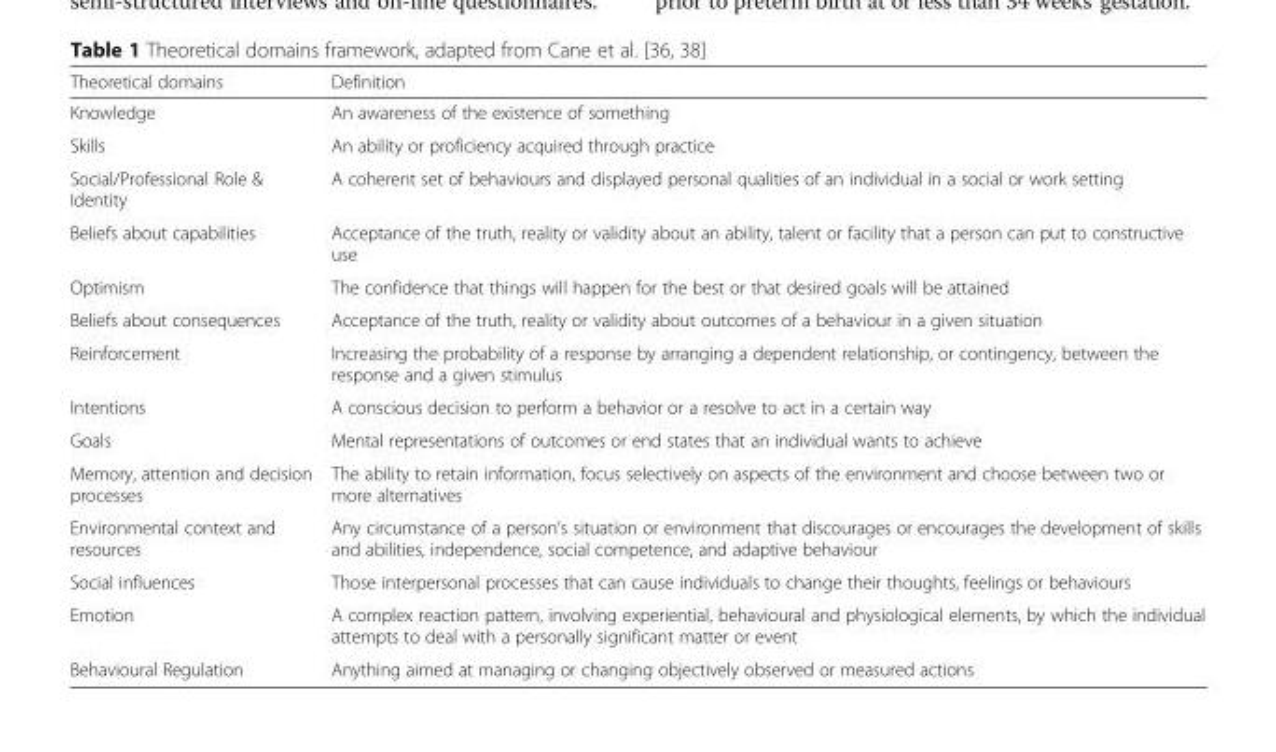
<table><thead><tr><td>Theoretical domains</td><td>Definition</td></tr></thead><tbody><tr><td>Knowledge</td><td>An awareness of the existence of something</td></tr><tr><td>Skills</td><td>An ability or proficiency acquired through practice</td></tr><tr><td>Social/Professional Role &amp; Identity</td><td>A coherent set of behaviours and displayed personal qualities of an individual in a social or work setting</td></tr><tr><td>Beliefs about capabilities</td><td>Acceptance of the truth, reality or validity about an ability, talent or facility that a person can put to constructive use</td></tr><tr><td>Optimism</td><td>The confidence that things will happen for the best or that desired goals will be attained</td></tr><tr><td>Beliefs about consequences</td><td>Acceptance of the truth, reality or validity about outcomes of a behaviour in a given situation</td></tr><tr><td>Reinforcement</td><td>Increasing the probability of a response by arranging a dependent relationship, or contingency, between the response and a given stimulus</td></tr><tr><td>Intentions</td><td>A conscious decision to perform a behavior or a resolve to act in a certain way</td></tr><tr><td>Goals</td><td>Mental representations of outcomes or end states that an individual wants to achieve</td></tr><tr><td>Memory, attention and decision processes</td><td>The ability to retain information, focus selectively on aspects of the environment and choose between two or more alternatives</td></tr><tr><td>Environmental context and resources</td><td>Any circumstance of a person’s situation or environment that discourages or encourages the development of skills and abilities, independence, social competence, and adaptive behaviour</td></tr><tr><td>Social influences</td><td>Those interpersonal processes that can cause individuals to change their thoughts, feelings or behaviours</td></tr><tr><td>Emotion</td><td>A complex reaction pattern, involving experiential, behavioural and physiological elements, by which the individual attempts to deal with a personally significant matter or event</td></tr><tr><td>Behavioural Regulation</td><td>Anything aimed at managing or changing objectively observed or measured actions</td></tr></tbody></table>